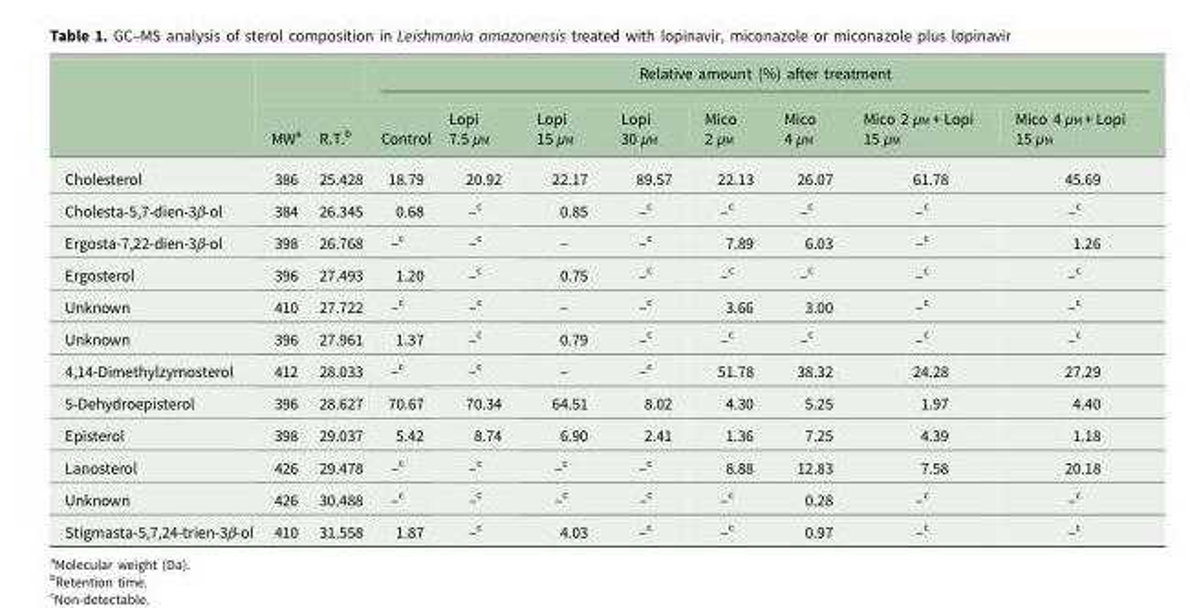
<table><thead><tr><td rowspan="2"></td><td rowspan="2">MW<sup>a</sup></td><td rowspan="2">R.T.<sup>b</sup></td><td colspan="8">Relative amount (%) after treatment</td></tr><tr><td>Control</td><td>Lopi 7.5 µM</td><td>Lopi 15 µM</td><td>Lopi 30 µM</td><td>Mico 2 µM</td><td>Mico 4 µM</td><td>Mico 2 µM + Lopi 15 µM</td><td>Mico 4 µM + Lopi 15 µM</td></tr></thead><tbody><tr><td>Cholesterol</td><td>386</td><td>25.428</td><td>18.79</td><td>20.92</td><td>22.17</td><td>89.57</td><td>22.13</td><td>26.07</td><td>61.78</td><td>45.69</td></tr><tr><td>Cholesta-5,7-dien-3β-ol</td><td>384</td><td>26.345</td><td>0.68</td><td>–<sup>c</sup></td><td>0.85</td><td>–<sup>c</sup></td><td>–<sup>c</sup></td><td>–<sup>c</sup></td><td>–<sup>c</sup></td><td>–<sup>c</sup></td></tr><tr><td>Ergosta-7,22-dien-3β-ol</td><td>398</td><td>26.768</td><td>–<sup>c</sup></td><td>–<sup>c</sup></td><td>–</td><td>–<sup>c</sup></td><td>7.89</td><td>6.03</td><td>–<sup>c</sup></td><td>1.26</td></tr><tr><td>Ergosterol</td><td>396</td><td>27.493</td><td>1.20</td><td>–<sup>c</sup></td><td>0.75</td><td>–<sup>c</sup></td><td>–<sup>c</sup></td><td>–<sup>c</sup></td><td>–<sup>c</sup></td><td>–<sup>c</sup></td></tr><tr><td>Unknown</td><td>410</td><td>27.722</td><td>–<sup>c</sup></td><td>–<sup>c</sup></td><td>–</td><td>–<sup>c</sup></td><td>3.66</td><td>3.00</td><td>–<sup>c</sup></td><td>–<sup>c</sup></td></tr><tr><td>Unknown</td><td>396</td><td>27.961</td><td>1.37</td><td>–<sup>c</sup></td><td>0.79</td><td>–<sup>c</sup></td><td>–<sup>c</sup></td><td>–<sup>c</sup></td><td>–<sup>c</sup></td><td>–<sup>c</sup></td></tr><tr><td>4,14-Dimethylzymosterol</td><td>412</td><td>28.033</td><td>–<sup>c</sup></td><td>–<sup>c</sup></td><td>–</td><td>–<sup>c</sup></td><td>51.78</td><td>38.32</td><td>24.28</td><td>27.29</td></tr><tr><td>5-Dehydroepisterol</td><td>396</td><td>28.627</td><td>70.67</td><td>70.34</td><td>64.51</td><td>8.02</td><td>4.30</td><td>5.25</td><td>1.97</td><td>4.40</td></tr><tr><td>Episterol</td><td>398</td><td>29.037</td><td>5.42</td><td>8.74</td><td>6.90</td><td>2.41</td><td>1.36</td><td>7.25</td><td>4.39</td><td>1.18</td></tr><tr><td>Lanosterol</td><td>426</td><td>29.478</td><td>–<sup>c</sup></td><td>–<sup>c</sup></td><td>–<sup>c</sup></td><td>–<sup>c</sup></td><td>8.88</td><td>12.83</td><td>7.58</td><td>20.18</td></tr><tr><td>Unknown</td><td>426</td><td>30.488</td><td>–<sup>c</sup></td><td>–<sup>c</sup></td><td>–<sup>c</sup></td><td>–<sup>c</sup></td><td>–<sup>c</sup></td><td>0.28</td><td>–<sup>c</sup></td><td>–<sup>c</sup></td></tr><tr><td>Stigmasta-5,7,24-trien-3β-ol</td><td>410</td><td>31.558</td><td>1.87</td><td>–<sup>c</sup></td><td>4.03</td><td>–<sup>c</sup></td><td>–<sup>c</sup></td><td>0.97</td><td>–<sup>c</sup></td><td>–<sup>c</sup></td></tr></tbody></table>